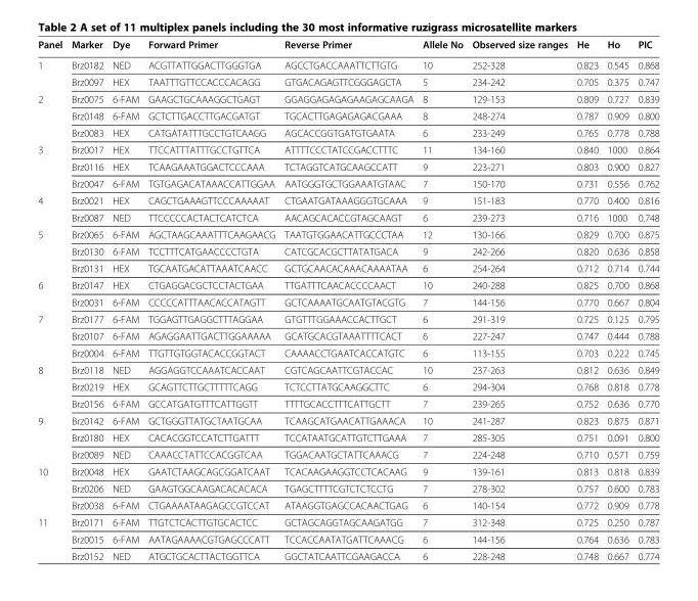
<table><thead><tr><td>Panel</td><td>Marker</td><td>Dye</td><td>Forward Primer</td><td>Reverse Primer</td><td>Allele No</td><td>Observed size ranges</td><td>He</td><td>Ho</td><td>PIC</td></tr></thead><tbody><tr><td rowspan="2">1</td><td>Brz0182</td><td>NED</td><td>ACGTTATTGGACTTGGGTGA</td><td>AGCCTGACCAAATTCTTGTG</td><td>10</td><td>252-328</td><td>0.823</td><td>0.545</td><td>0.868</td></tr><tr><td>Brz0097</td><td>HEX</td><td>TAATTTGTTCCACCCACAGG</td><td>GTGACAGAGTTCGGGAGCTA</td><td>5</td><td>234-242</td><td>0.705</td><td>0.375</td><td>0.747</td></tr><tr><td rowspan="3">2</td><td>Brz0075</td><td>6-FAM</td><td>GAAGCTGCAAAGGCTGAGT</td><td>GGAGGAGAGAGAAGAGCAAGA</td><td>8</td><td>129-153</td><td>0.809</td><td>0.727</td><td>0.839</td></tr><tr><td>Brz0148</td><td>6-FAM</td><td>GCTCTTGACCTTGACGATGT</td><td>TGCACTTGAGAGAGACGAAA</td><td>8</td><td>248-274</td><td>0.787</td><td>0.909</td><td>0.800</td></tr><tr><td>Brz0083</td><td>HEX</td><td>CATGATATTTGCCTGTCAAGG</td><td>AGCACCGGTGATGTGAATA</td><td>6</td><td>233-249</td><td>0.765</td><td>0.778</td><td>0.788</td></tr><tr><td rowspan="3">3</td><td>Brz0017</td><td>HEX</td><td>TTCCATTTATTTGCCTGTTCA</td><td>ATTTTCCCTATCCGACCTTTC</td><td>11</td><td>134-160</td><td>0.840</td><td>1000</td><td>0.864</td></tr><tr><td>Brz0116</td><td>HEX</td><td>TCAAGAAATGGACTCCCAAA</td><td>TCTAGGTCATGCAAGCCATT</td><td>9</td><td>223-271</td><td>0.803</td><td>0.900</td><td>0.827</td></tr><tr><td>Brz0047</td><td>6-FAM</td><td>TGTGAGACATAAACCATTGGAA</td><td>AATGGGTGCTGGAAATGTAAC</td><td>7</td><td>150-170</td><td>0.731</td><td>0.556</td><td>0.762</td></tr><tr><td rowspan="2">4</td><td>Brz0021</td><td>HEX</td><td>CAGCTGAAAGTTCCCAAAAAT</td><td>CTGAATGATAAAGGGTGCAAA</td><td>9</td><td>151-183</td><td>0.770</td><td>0.400</td><td>0.816</td></tr><tr><td>Brz0087</td><td>NED</td><td>TTCCCCCACTACTCATCTCA</td><td>AACAGCACACCGTAGCAAGT</td><td>6</td><td>239-273</td><td>0.716</td><td>1000</td><td>0.748</td></tr><tr><td rowspan="3">5</td><td>Brz0065</td><td>6-FAM</td><td>AGCTAAGCAAATTTCAAGAACG</td><td>TAATGTGGAACATTGCCCTAA</td><td>12</td><td>130-166</td><td>0.829</td><td>0.700</td><td>0.875</td></tr><tr><td>Brz0130</td><td>6-FAM</td><td>TCCTTTCATGAACCCCTGTA</td><td>CATCGCACGCTTATATGACA</td><td>9</td><td>242-266</td><td>0.820</td><td>0.636</td><td>0.858</td></tr><tr><td>Brz0131</td><td>HEX</td><td>TGCAATGACATTAAATCAACC</td><td>GCTGCAACACAAACAAAATAA</td><td>6</td><td>254-264</td><td>0.712</td><td>0.714</td><td>0.744</td></tr><tr><td rowspan="2">6</td><td>Brz0147</td><td>HEX</td><td>CTGAGGACGCTCCTACTGAA</td><td>TTGATTTCAACACCCCAACT</td><td>10</td><td>240-288</td><td>0.825</td><td>0.700</td><td>0.868</td></tr><tr><td>Brz0031</td><td>6-FAM</td><td>CCCCCATTTAACACCATAGTT</td><td>GCTCAAAATGCAATGTACGTG</td><td>7</td><td>144-156</td><td>0.770</td><td>0.667</td><td>0.804</td></tr><tr><td rowspan="3">7</td><td>Brz0177</td><td>6-FAM</td><td>TGGAGTTGAGGCTTTAGGAA</td><td>GTGTTTGGAAACCACTTGCT</td><td>6</td><td>291-319</td><td>0.725</td><td>0.125</td><td>0.795</td></tr><tr><td>Brz0107</td><td>6-FAM</td><td>AGAGGAATTGACTTGGAAAAA</td><td>GCATGCACGTAAATTTTCACT</td><td>6</td><td>227-247</td><td>0.747</td><td>0.444</td><td>0.788</td></tr><tr><td>Brz0004</td><td>6-FAM</td><td>TTGTTGTGGTACACCGGTACT</td><td>CAAAACCTGAATCACCATGTC</td><td>6</td><td>113-155</td><td>0.703</td><td>0.222</td><td>0.745</td></tr><tr><td rowspan="3">8</td><td>Brz0118</td><td>NED</td><td>AGGAGGTCCAAATCACCAAT</td><td>CGTCAGCAATTCGTACCAC</td><td>10</td><td>237-263</td><td>0.812</td><td>0.636</td><td>0.849</td></tr><tr><td>Brz0219</td><td>HEX</td><td>GCAGTTCTTGCTTTTTCAGG</td><td>TCTCCTTATGCAAGGCTTC</td><td>6</td><td>294-304</td><td>0.768</td><td>0.818</td><td>0.778</td></tr><tr><td>Brz0156</td><td>6-FAM</td><td>GCCATGATGTTTCATTGGTT</td><td>TTTTGCACCTTTCATTGCTT</td><td>7</td><td>239-265</td><td>0.752</td><td>0.636</td><td>0.770</td></tr><tr><td rowspan="3">9</td><td>Brz0142</td><td>6-FAM</td><td>GCTGGGTTATGCTAATGCAA</td><td>TCAAGCATGAACATTGAAACA</td><td>10</td><td>241-287</td><td>0.823</td><td>0.875</td><td>0.871</td></tr><tr><td>Brz0180</td><td>HEX</td><td>CACACGGTCCATCTTGATTT</td><td>TCCATAATGCATTGTCTTGAAA</td><td>7</td><td>285-305</td><td>0.751</td><td>0.091</td><td>0.800</td></tr><tr><td>Brz0089</td><td>NED</td><td>CAAACCTATTCCACGGTCAA</td><td>TGGACAATGCTATTCAAACG</td><td>7</td><td>224-248</td><td>0.710</td><td>0.571</td><td>0.759</td></tr><tr><td rowspan="3">10</td><td>Brz0048</td><td>HEX</td><td>GAATCTAAGCAGCGGATCAAT</td><td>TCACAAGAAGGTCCTCACAAG</td><td>9</td><td>139-161</td><td>0.813</td><td>0.818</td><td>0.839</td></tr><tr><td>Brz0206</td><td>NED</td><td>GAAGTGGCAAGACACACACA</td><td>TGAGCTTTTCGTCTCTCCTG</td><td>7</td><td>278-302</td><td>0.757</td><td>0.600</td><td>0.783</td></tr><tr><td>Brz0038</td><td>6-FAM</td><td>CTGAAAATAAGAGCCGTCCAT</td><td>ATAAGGTGAGCCACAACTGAG</td><td>6</td><td>140-154</td><td>0.772</td><td>0.909</td><td>0.778</td></tr><tr><td rowspan="3">11</td><td>Brz0171</td><td>6-FAM</td><td>TTGTCTCACTTGTGCACTCC</td><td>GCTAGCAGGTAGCAAGATGG</td><td>7</td><td>312-348</td><td>0.725</td><td>0.250</td><td>0.787</td></tr><tr><td>Brz0015</td><td>6-FAM</td><td>AATAGAAAACGTGAGCCCATT</td><td>TCCACCAATATGATTCAAACG</td><td>6</td><td>144-156</td><td>0.764</td><td>0.636</td><td>0.783</td></tr><tr><td>Brz0152</td><td>NED</td><td>ATGCTGCACTTACTGGTTCA</td><td>GGCTATCAATTCGAAGACCA</td><td>6</td><td>228-248</td><td>0.748</td><td>0.667</td><td>0.774</td></tr></tbody></table>